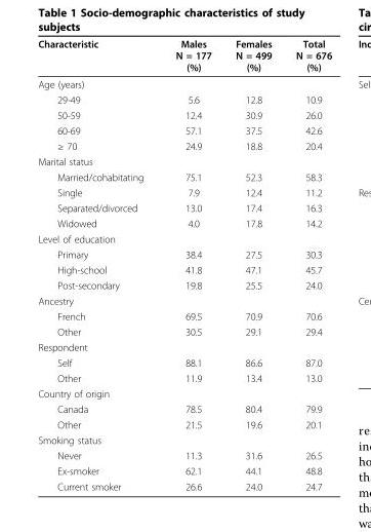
<table><thead><tr><td>Characteristic</td><td>Males N = 177 (%)</td><td>Females N = 499 (%)</td><td>Total N = 676 (%)</td></tr></thead><tbody><tr><td colspan="4">Age (years)</td></tr><tr><td>29-49</td><td>5.6</td><td>12.8</td><td>10.9</td></tr><tr><td>50-59</td><td>12.4</td><td>30.9</td><td>26.0</td></tr><tr><td>60-69</td><td>57.1</td><td>37.5</td><td>42.6</td></tr><tr><td>≥ 70</td><td>24.9</td><td>18.8</td><td>20.4</td></tr><tr><td colspan="4">Marital status</td></tr><tr><td>Married/cohabitating</td><td>75.1</td><td>52.3</td><td>58.3</td></tr><tr><td>Single</td><td>7.9</td><td>12.4</td><td>11.2</td></tr><tr><td>Separated/divorced</td><td>13.0</td><td>17.4</td><td>16.3</td></tr><tr><td>Widowed</td><td>4.0</td><td>17.8</td><td>14.2</td></tr><tr><td colspan="4">Level of education</td></tr><tr><td>Primary</td><td>38.4</td><td>27.5</td><td>30.3</td></tr><tr><td>High-school</td><td>41.8</td><td>47.1</td><td>45.7</td></tr><tr><td>Post-secondary</td><td>19.8</td><td>25.5</td><td>24.0</td></tr><tr><td colspan="4">Ancestry</td></tr><tr><td>French</td><td>69.5</td><td>70.9</td><td>70.6</td></tr><tr><td>Other</td><td>30.5</td><td>29.1</td><td>29.4</td></tr><tr><td colspan="4">Respondent</td></tr><tr><td>Self</td><td>88.1</td><td>86.6</td><td>87.0</td></tr><tr><td>Other</td><td>11.9</td><td>13.4</td><td>13.0</td></tr><tr><td colspan="4">Country of origin</td></tr><tr><td>Canada</td><td>78.5</td><td>80.4</td><td>79.9</td></tr><tr><td>Other</td><td>21.5</td><td>19.6</td><td>20.1</td></tr><tr><td colspan="4">Smoking status</td></tr><tr><td>Never</td><td>11.3</td><td>31.6</td><td>26.5</td></tr><tr><td>Ex-smoker</td><td>62.1</td><td>44.1</td><td>48.8</td></tr><tr><td>Current smoker</td><td>26.6</td><td>24.0</td><td>24.7</td></tr></tbody></table>